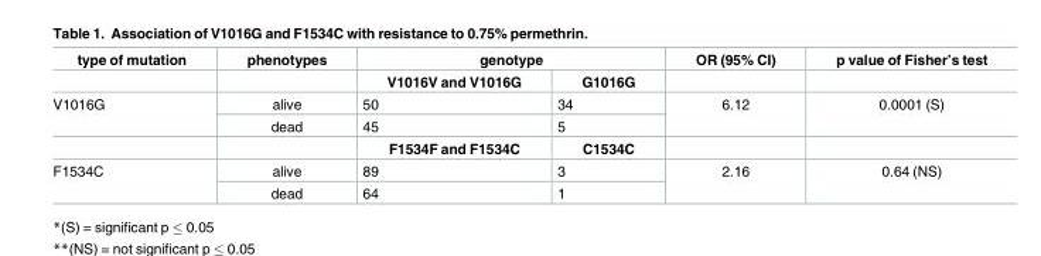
<table><thead><tr><td rowspan="2">type of mutation</td><td rowspan="2">phenotypes</td><td colspan="2">genotype</td><td rowspan="2">OR (95% CI)</td><td rowspan="2">p value of Fisher’s test</td></tr><tr><td>V1016V and V1016G</td><td>G1016G</td></tr></thead><tbody><tr><td rowspan="3">V1016G</td><td>alive</td><td>50</td><td>34</td><td rowspan="2">6.12</td><td rowspan="2">0.0001 (S)</td></tr><tr><td>dead</td><td>45</td><td>5</td></tr><tr><td></td><td>F1534F and F1534C</td><td>C1534C</td><td></td><td></td></tr><tr><td rowspan="2">F1534C</td><td>alive</td><td>89</td><td>3</td><td rowspan="2">2.16</td><td rowspan="2">0.64 (NS)</td></tr><tr><td>dead</td><td>64</td><td>1</td></tr></tbody></table>